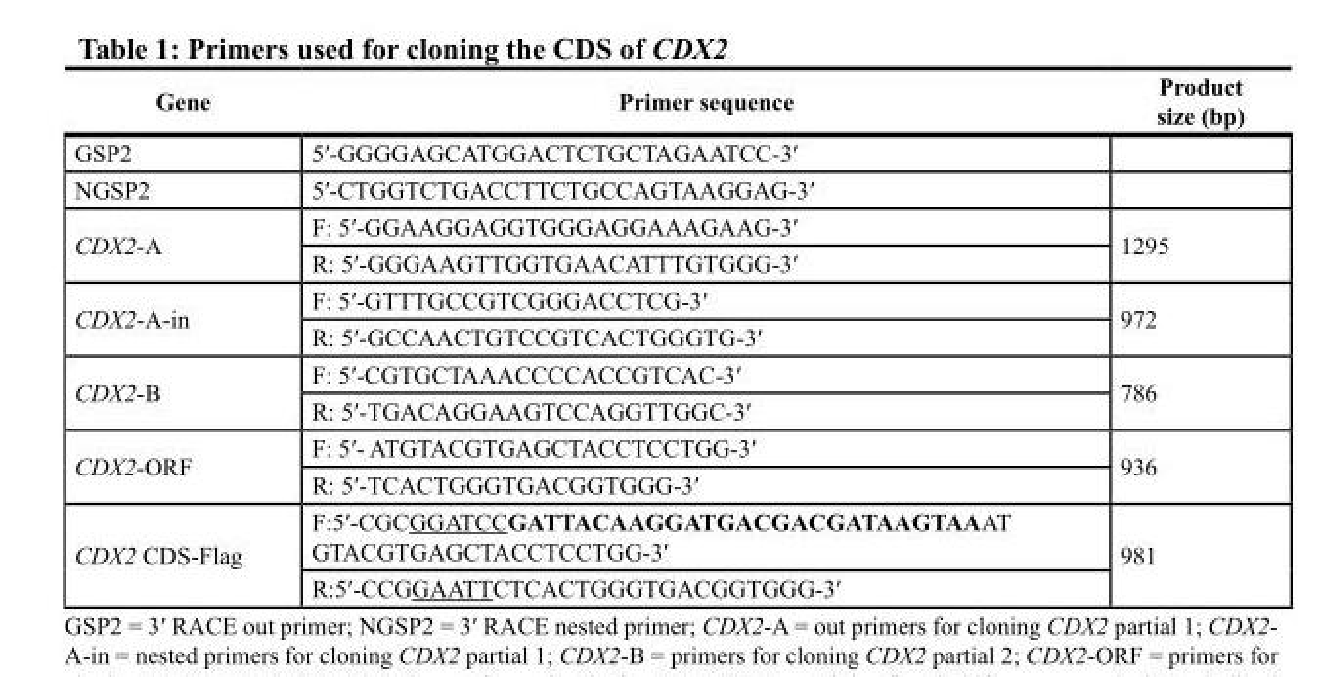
<table><thead><tr><td>Gene</td><td>Primer sequence</td><td>Product size (bp)</td></tr></thead><tbody><tr><td>GSP2</td><td>5′-GGGGAGCATGGACTCTGCTAGAATCC-3′</td><td></td></tr><tr><td>NGSP2</td><td>5′-CTGGTCTGACCTTCTGCCAGTAAGGAG-3′</td><td></td></tr><tr><td rowspan="2">CDX2-A</td><td>F: 5′-GGAAGGAGGTGGGAGGAAAGAAG-3′</td><td rowspan="2">1295</td></tr><tr><td>R: 5′-GGGAAGTTGGTGAACATTTGTGGG-3′</td></tr><tr><td rowspan="2">CDX2-A-in</td><td>F: 5′-GTTTGCCGTCGGGACCTCG-3′</td><td rowspan="2">972</td></tr><tr><td>R: 5′-GCCAACTGTCCGTCACTGGGTG-3′</td></tr><tr><td rowspan="2">CDX2-B</td><td>F: 5′-CGTGCTAAACCCCACCGTCAC-3′</td><td rowspan="2">786</td></tr><tr><td>R: 5′-TGACAGGAAGTCCAGGTTGGC-3′</td></tr><tr><td rowspan="2">CDX2-ORF</td><td>F: 5′- ATGTACGTGAGCTACCTCCTGG-3′</td><td rowspan="2">936</td></tr><tr><td>R: 5′-TCACTGGGTGACGGTGGG-3′</td></tr><tr><td rowspan="2">CDX2 CDS-Flag</td><td>F:5′-CGCGGATCCGATTACAAGGATGACGACGATAAGTAAAT GTACGTGAGCTACCTCCTGG-3′</td><td rowspan="2">981</td></tr><tr><td>R:5′-CCGGAATTCTCACTGGGTGACGGTGGG-3′</td></tr></tbody></table>